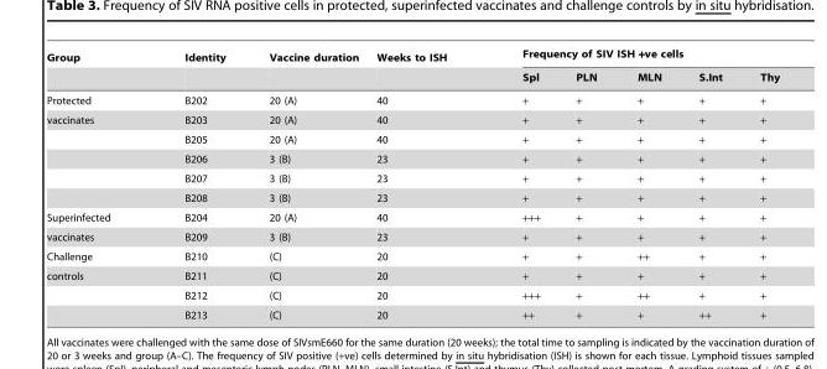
<table><thead><tr><td rowspan="2">Group</td><td rowspan="2">Identity</td><td rowspan="2">Vaccine duration</td><td rowspan="2">Weeks to ISH</td><td colspan="5">Frequency of SIV ISH +ve cells</td></tr><tr><td>Spl</td><td>PLN</td><td>MLN</td><td>S.Int</td><td>Thy</td></tr></thead><tbody><tr><td>Protected</td><td>B202</td><td>20 (A)</td><td>40</td><td>+</td><td>+</td><td>+</td><td>+</td><td>+</td></tr><tr><td rowspan="5">vaccinates</td><td>B203</td><td>20 (A)</td><td>40</td><td>+</td><td>+</td><td>+</td><td>+</td><td>+</td></tr><tr><td>B205</td><td>20 (A)</td><td>40</td><td>+</td><td>+</td><td>+</td><td>+</td><td>+</td></tr><tr><td>B206</td><td>3 (B)</td><td>23</td><td>+</td><td>+</td><td>+</td><td>+</td><td>+</td></tr><tr><td>B207</td><td>3 (B)</td><td>23</td><td>+</td><td>+</td><td>+</td><td>+</td><td>+</td></tr><tr><td>B208</td><td>3 (B)</td><td>23</td><td>+</td><td>+</td><td>+</td><td>+</td><td>+</td></tr><tr><td>Superinfected</td><td>B204</td><td>20 (A)</td><td>40</td><td>+++</td><td>+</td><td>+</td><td>+</td><td>+</td></tr><tr><td>vaccinates</td><td>B209</td><td>3 (B)</td><td>23</td><td>+</td><td>+</td><td>+</td><td>+</td><td>+</td></tr><tr><td>Challenge</td><td>B210</td><td>(C)</td><td>20</td><td>+</td><td>+</td><td>++</td><td>+</td><td>+</td></tr><tr><td rowspan="3">controls</td><td>B211</td><td>(C)</td><td>20</td><td>+</td><td>+</td><td>+</td><td>+</td><td>+</td></tr><tr><td>B212</td><td>(C)</td><td>20</td><td>+++</td><td>+</td><td>++</td><td>+</td><td>+</td></tr><tr><td>B213</td><td>(C)</td><td>20</td><td>++</td><td>+</td><td>+</td><td>++</td><td>+</td></tr></tbody></table>